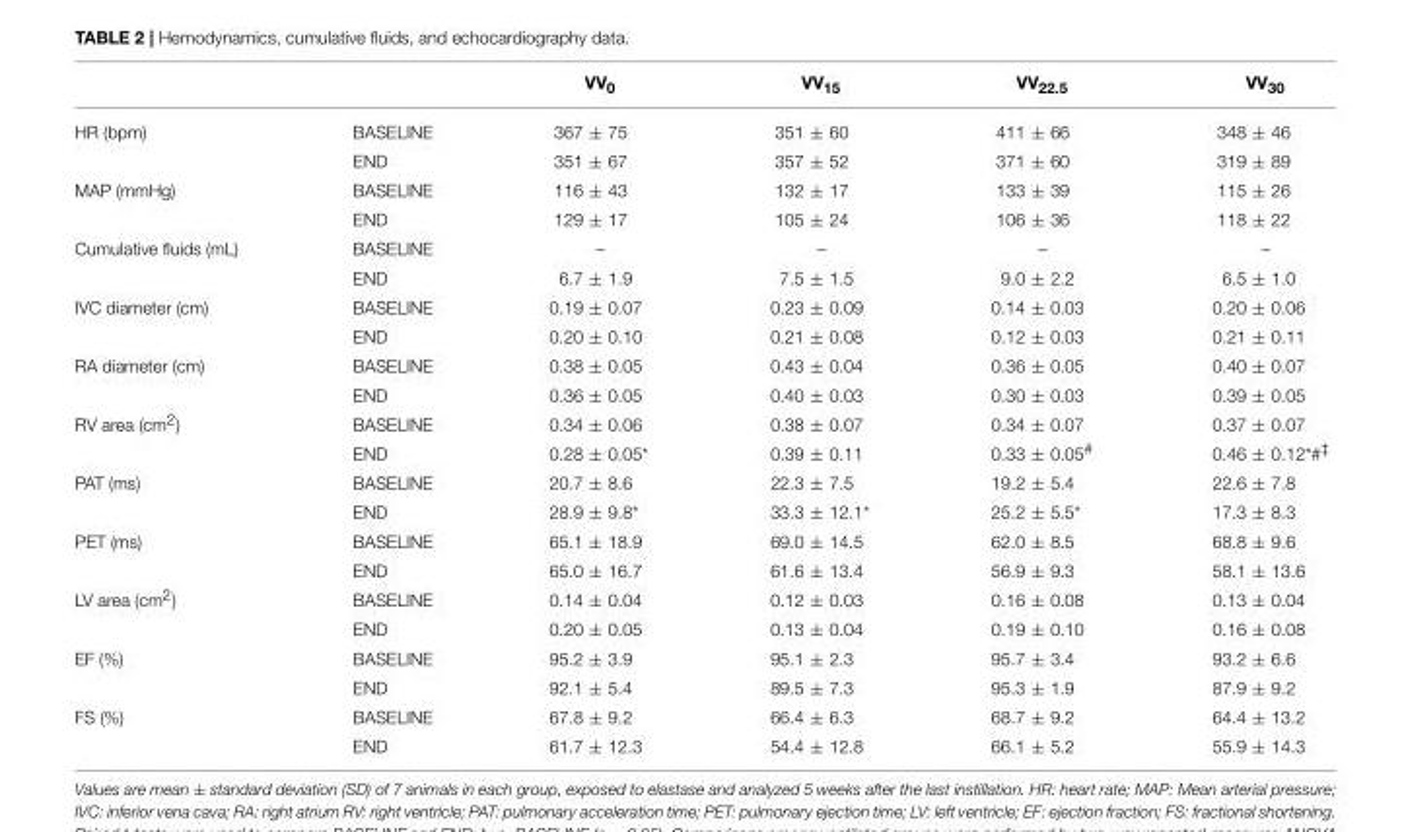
<table><thead><tr><td></td><td></td><td>VV<sub>0</sub></td><td>VV<sub>15</sub></td><td>VV<sub>22.5</sub></td><td>VV<sub>30</sub></td></tr></thead><tbody><tr><td rowspan="2">HR (bpm)</td><td>BASELINE</td><td>367 ± 75</td><td>351 ± 60</td><td>411 ± 66</td><td>348 ± 46</td></tr><tr><td>END</td><td>351 ± 67</td><td>357 ± 52</td><td>371 ± 60</td><td>319 ± 89</td></tr><tr><td rowspan="2">MAP (mmHg)</td><td>BASELINE</td><td>116 ± 43</td><td>132 ± 17</td><td>133 ± 39</td><td>115 ± 26</td></tr><tr><td>END</td><td>129 ± 17</td><td>105 ± 24</td><td>106 ± 36</td><td>118 ± 22</td></tr><tr><td rowspan="2">Cumulative fluids (mL)</td><td>BASELINE</td><td>–</td><td>–</td><td>–</td><td>–</td></tr><tr><td>END</td><td>6.7 ± 1.9</td><td>7.5 ± 1.5</td><td>9.0 ± 2.2</td><td>6.5 ± 1.0</td></tr><tr><td rowspan="2">IVC diameter (cm)</td><td>BASELINE</td><td>0.19 ± 0.07</td><td>0.23 ± 0.09</td><td>0.14 ± 0.03</td><td>0.20 ± 0.06</td></tr><tr><td>END</td><td>0.20 ± 0.10</td><td>0.21 ± 0.08</td><td>0.12 ± 0.03</td><td>0.21 ± 0.11</td></tr><tr><td rowspan="2">RA diameter (cm)</td><td>BASELINE</td><td>0.38 ± 0.05</td><td>0.43 ± 0.04</td><td>0.36 ± 0.05</td><td>0.40 ± 0.07</td></tr><tr><td>END</td><td>0.36 ± 0.05</td><td>0.40 ± 0.03</td><td>0.30 ± 0.03</td><td>0.39 ± 0.05</td></tr><tr><td rowspan="2">RV area (cm<sup>2</sup>)</td><td>BASELINE</td><td>0.34 ± 0.06</td><td>0.38 ± 0.07</td><td>0.34 ± 0.07</td><td>0.37 ± 0.07</td></tr><tr><td>END</td><td>0.28 ± 0.05*</td><td>0.39 ± 0.11</td><td>0.33 ± 0.05<sup>#</sup></td><td>0.46 ± 0.12*#<sup>‡</sup></td></tr><tr><td rowspan="2">PAT (ms)</td><td>BASELINE</td><td>20.7 ± 8.6</td><td>22.3 ± 7.5</td><td>19.2 ± 5.4</td><td>22.6 ± 7.8</td></tr><tr><td>END</td><td>28.9 ± 9.8*</td><td>33.3 ± 12.1*</td><td>25.2 ± 5.5*</td><td>17.3 ± 8.3</td></tr><tr><td rowspan="2">PET (ms)</td><td>BASELINE</td><td>65.1 ± 18.9</td><td>69.0 ± 14.5</td><td>62.0 ± 8.5</td><td>68.8 ± 9.6</td></tr><tr><td>END</td><td>65.0 ± 16.7</td><td>61.6 ± 13.4</td><td>56.9 ± 9.3</td><td>58.1 ± 13.6</td></tr><tr><td rowspan="2">LV area (cm<sup>2</sup>)</td><td>BASELINE</td><td>0.14 ± 0.04</td><td>0.12 ± 0.03</td><td>0.16 ± 0.08</td><td>0.13 ± 0.04</td></tr><tr><td>END</td><td>0.20 ± 0.05</td><td>0.13 ± 0.04</td><td>0.19 ± 0.10</td><td>0.16 ± 0.08</td></tr><tr><td rowspan="2">EF (%)</td><td>BASELINE</td><td>95.2 ± 3.9</td><td>95.1 ± 2.3</td><td>95.7 ± 3.4</td><td>93.2 ± 6.6</td></tr><tr><td>END</td><td>92.1 ± 5.4</td><td>89.5 ± 7.3</td><td>95.3 ± 1.9</td><td>87.9 ± 9.2</td></tr><tr><td rowspan="2">FS (%)</td><td>BASELINE</td><td>67.8 ± 9.2</td><td>66.4 ± 6.3</td><td>68.7 ± 9.2</td><td>64.4 ± 13.2</td></tr><tr><td>END</td><td>61.7 ± 12.3</td><td>54.4 ± 12.8</td><td>66.1 ± 5.2</td><td>55.9 ± 14.3</td></tr></tbody></table>